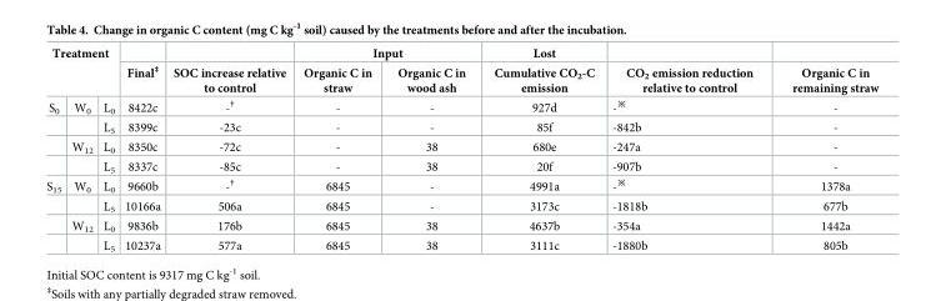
<table><thead><tr><td rowspan="2" colspan="3">Treatment</td><td rowspan="3">Final<sup>‡</sup> 8422c</td><td rowspan="3">SOC increase relative to control -<sup>†</sup></td><td colspan="2">Input</td><td rowspan="3">Lost Cumulative CO<sub>2</sub>-C emission 927d</td><td rowspan="3">CO<sub>2</sub> emission reduction relative to control -<sup>※</sup></td><td rowspan="3">Organic C in remaining straw -</td></tr><tr><td rowspan="2">Organic C in straw -</td><td rowspan="2">Organic C in wood ash -</td></tr><tr><td>S<sub>0</sub></td><td>W<sub>0</sub></td><td>L<sub>0</sub></td></tr></thead><tbody><tr><td></td><td></td><td>L<sub>5</sub></td><td>8399c</td><td>-23c</td><td>-</td><td>-</td><td>85f</td><td>-842b</td><td>-</td></tr><tr><td></td><td>W<sub>12</sub></td><td>L<sub>0</sub></td><td>8350c</td><td>-72c</td><td>-</td><td>38</td><td>680e</td><td>-247a</td><td>-</td></tr><tr><td></td><td></td><td>L<sub>5</sub></td><td>8337c</td><td>-85c</td><td>-</td><td>38</td><td>20f</td><td>-907b</td><td>-</td></tr><tr><td rowspan="4">S<sub>15</sub></td><td>W<sub>0</sub></td><td>L<sub>0</sub></td><td>9660b</td><td>-<sup>†</sup></td><td>6845</td><td>-</td><td>4991a</td><td>-<sup>※</sup></td><td>1378a</td></tr><tr><td></td><td>L<sub>5</sub></td><td>10166a</td><td>506a</td><td>6845</td><td>-</td><td>3173c</td><td>-1818b</td><td>677b</td></tr><tr><td>W<sub>12</sub></td><td>L<sub>0</sub></td><td>9836b</td><td>176b</td><td>6845</td><td>38</td><td>4637b</td><td>-354a</td><td>1442a</td></tr><tr><td></td><td>L<sub>5</sub></td><td>10237a</td><td>577a</td><td>6845</td><td>38</td><td>3111c</td><td>-1880b</td><td>805b</td></tr></tbody></table>